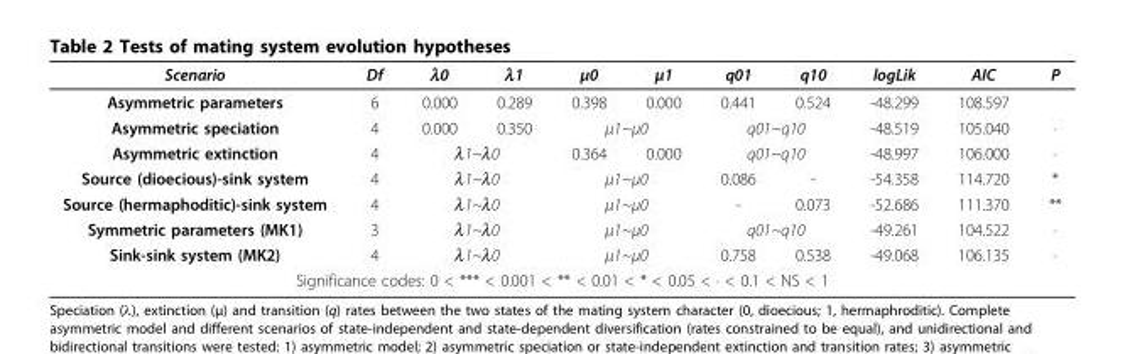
<table><thead><tr><td>Scenario</td><td>Df</td><td>λ0</td><td>λ1</td><td>μ0</td><td>μ1</td><td>q01</td><td>q10</td><td>logLik</td><td>AIC</td><td>P</td></tr></thead><tbody><tr><td>Asymmetric parameters</td><td>6</td><td>0.000</td><td>0.289</td><td>0.398</td><td>0.000</td><td>0.441</td><td>0.524</td><td>-48.299</td><td>108.597</td><td></td></tr><tr><td>Asymmetric speciation</td><td>4</td><td>0.000</td><td>0.350</td><td colspan="2">μ1~μ0</td><td colspan="2">q01~q10</td><td>-48.519</td><td>105.040</td><td>·</td></tr><tr><td>Asymmetric extinction</td><td>4</td><td colspan="2">λ1~λ0</td><td>0.364</td><td>0.000</td><td colspan="2">q01~q10</td><td>-48.997</td><td>106.000</td><td>·</td></tr><tr><td>Source (dioecious)-sink system</td><td>4</td><td colspan="2">λ1~λ0</td><td colspan="2">μ1~μ0</td><td>0.086</td><td>-</td><td>-54.358</td><td>114.720</td><td>*</td></tr><tr><td>Source (hermaphoditic)-sink system</td><td>4</td><td colspan="2">λ1~λ0</td><td colspan="2">μ1~μ0</td><td>-</td><td>0.073</td><td>-52.686</td><td>111.370</td><td>**</td></tr><tr><td>Symmetric parameters (MK1)</td><td>3</td><td colspan="2">λ1~λ0</td><td colspan="2">μ1~μ0</td><td colspan="2">q01~q10</td><td>-49.261</td><td>104.522</td><td>·</td></tr><tr><td>Sink-sink system (MK2)</td><td>4</td><td colspan="2">λ1~λ0</td><td colspan="2">μ1~μ0</td><td>0.758</td><td>0.538</td><td>-49.068</td><td>106.135</td><td>·</td></tr><tr><td colspan="11">Significance codes: 0 &lt; *** &lt; 0.001 &lt; ** &lt; 0.01 &lt; * &lt; 0.05 &lt; · &lt; 0.1 &lt; NS &lt; 1</td></tr></tbody></table>